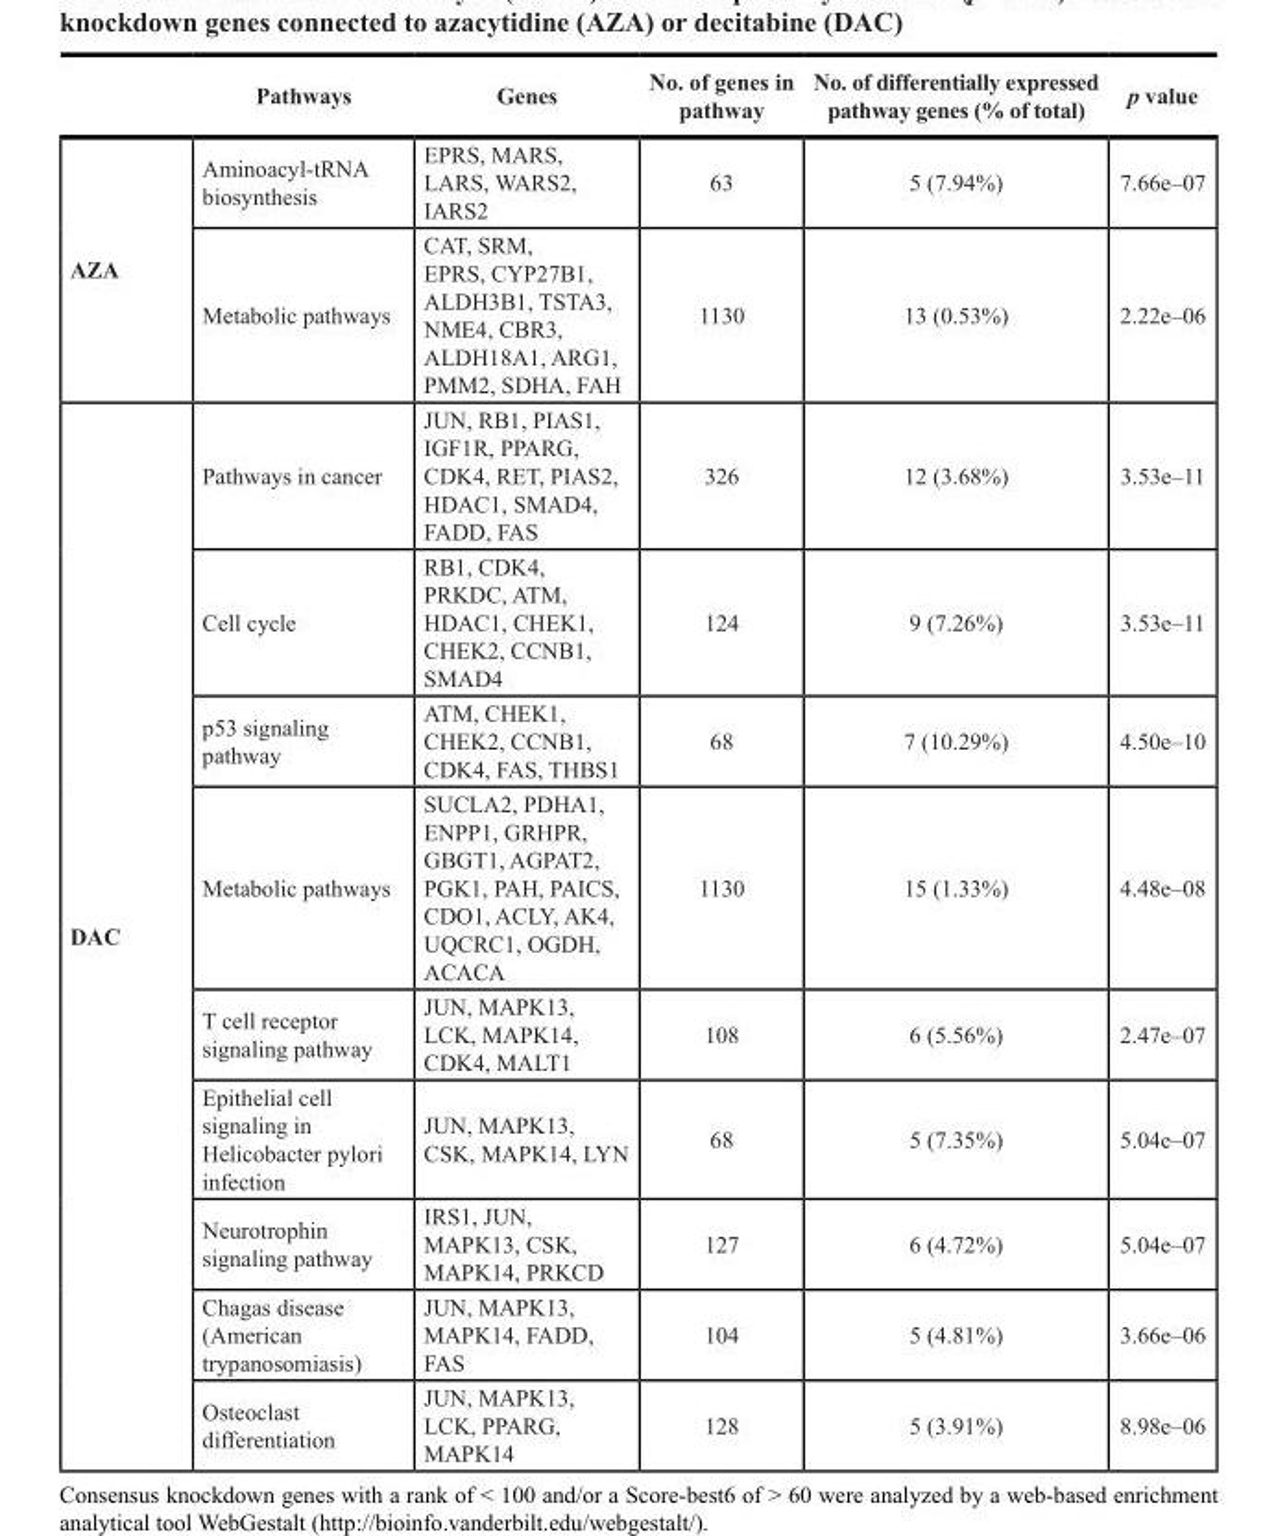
<table><thead><tr><td></td><td>Pathways</td><td>Genes</td><td>No. of genes in pathway</td><td>No. of differentially expressed pathway genes (% of total)</td><td>p value</td></tr></thead><tbody><tr><td rowspan="2">AZA</td><td>Aminoacyl-tRNA biosynthesis</td><td>EPRS, MARS, LARS, WARS2, IARS2</td><td>63</td><td>5 (7.94%)</td><td>7.66e–07</td></tr><tr><td>Metabolic pathways</td><td>CAT, SRM, EPRS, CYP27B1, ALDH3B1, TSTA3, NME4, CBR3, ALDH18A1, ARG1, PMM2, SDHA, FAH</td><td>1130</td><td>13 (0.53%)</td><td>2.22e–06</td></tr><tr><td rowspan="9">DAC</td><td>Pathways in cancer</td><td>JUN, RB1, PIAS1, IGF1R, PPARG, CDK4, RET, PIAS2, HDAC1, SMAD4, FADD, FAS</td><td>326</td><td>12 (3.68%)</td><td>3.53e–11</td></tr><tr><td>Cell cycle</td><td>RB1, CDK4, PRKDC, ATM, HDAC1, CHEK1, CHEK2, CCNB1, SMAD4</td><td>124</td><td>9 (7.26%)</td><td>3.53e–11</td></tr><tr><td>p53 signaling pathway</td><td>ATM, CHEK1, CHEK2, CCNB1, CDK4, FAS, THBS1</td><td>68</td><td>7 (10.29%)</td><td>4.50e–10</td></tr><tr><td>Metabolic pathways</td><td>SUCLA2, PDHA1, ENPP1, GRHPR, GBGT1, AGPAT2, PGK1, PAH, PAICS, CDO1, ACLY, AK4, UQCRC1, OGDH, ACACA</td><td>1130</td><td>15 (1.33%)</td><td>4.48e–08</td></tr><tr><td>T cell receptor signaling pathway</td><td>JUN, MAPK13, LCK, MAPK14, CDK4, MALT1</td><td>108</td><td>6 (5.56%)</td><td>2.47e–07</td></tr><tr><td>Epithelial cell signaling in Helicobacter pylori infection</td><td>JUN, MAPK13, CSK, MAPK14, LYN</td><td>68</td><td>5 (7.35%)</td><td>5.04e–07</td></tr><tr><td>Neurotrophin signaling pathway</td><td>IRS1, JUN, MAPK13, CSK, MAPK14, PRKCD</td><td>127</td><td>6 (4.72%)</td><td>5.04e–07</td></tr><tr><td>Chagas disease (American trypanosomiasis)</td><td>JUN, MAPK13, MAPK14, FADD, FAS</td><td>104</td><td>5 (4.81%)</td><td>3.66e–06</td></tr><tr><td>Osteoclast differentiation</td><td>JUN, MAPK13, LCK, PPARG, MAPK14</td><td>128</td><td>5 (3.91%)</td><td>8.98e–06</td></tr></tbody></table>